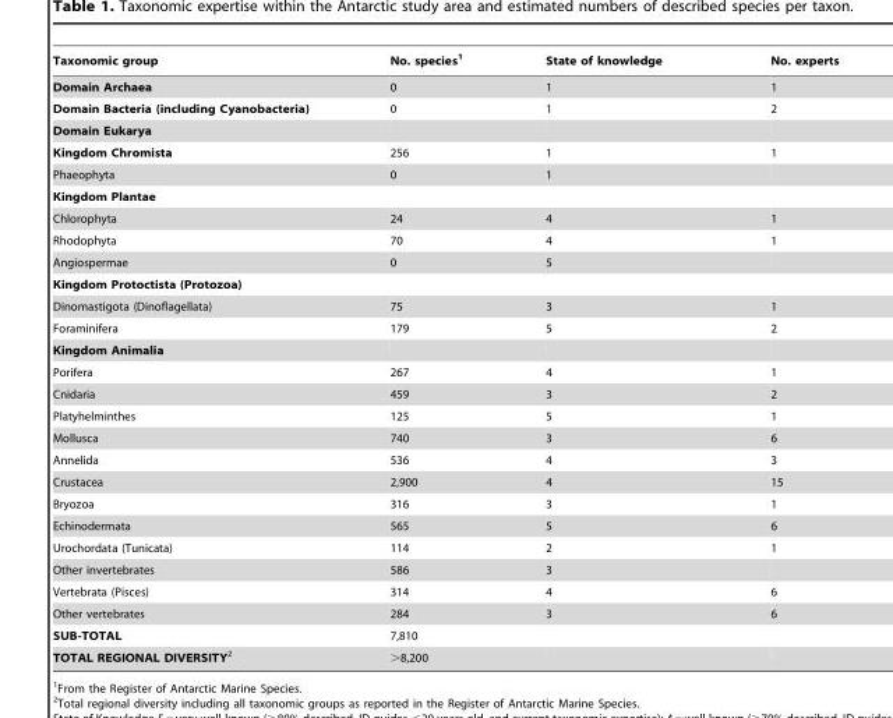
<table><thead><tr><td>Taxonomic group</td><td>No. species<sup>1</sup></td><td>State of knowledge</td><td>No. experts</td></tr></thead><tbody><tr><td>Domain Archaea</td><td>0</td><td>1</td><td>1</td></tr><tr><td>Domain Bacteria (including Cyanobacteria)</td><td>0</td><td>1</td><td>2</td></tr><tr><td colspan="4">Domain Eukarya</td></tr><tr><td>Kingdom Chromista</td><td>256</td><td>1</td><td>1</td></tr><tr><td>Phaeophyta</td><td>0</td><td>1</td><td></td></tr><tr><td colspan="4">Kingdom Plantae</td></tr><tr><td>Chlorophyta</td><td>24</td><td>4</td><td>1</td></tr><tr><td>Rhodophyta</td><td>70</td><td>4</td><td>1</td></tr><tr><td>Angiospermae</td><td>0</td><td>5</td><td></td></tr><tr><td colspan="4">Kingdom Protoctista (Protozoa)</td></tr><tr><td>Dinomastigota (Dinoflagellata)</td><td>75</td><td>3</td><td>1</td></tr><tr><td>Foraminifera</td><td>179</td><td>5</td><td>2</td></tr><tr><td colspan="4">Kingdom Animalia</td></tr><tr><td>Porifera</td><td>267</td><td>4</td><td>1</td></tr><tr><td>Cnidaria</td><td>459</td><td>3</td><td>2</td></tr><tr><td>Platyhelminthes</td><td>125</td><td>5</td><td>1</td></tr><tr><td>Mollusca</td><td>740</td><td>3</td><td>6</td></tr><tr><td>Annelida</td><td>536</td><td>4</td><td>3</td></tr><tr><td>Crustacea</td><td>2,900</td><td>4</td><td>15</td></tr><tr><td>Bryozoa</td><td>316</td><td>3</td><td>1</td></tr><tr><td>Echinodermata</td><td>565</td><td>5</td><td>6</td></tr><tr><td>Urochordata (Tunicata)</td><td>114</td><td>2</td><td>1</td></tr><tr><td>Other invertebrates</td><td>586</td><td>3</td><td></td></tr><tr><td>Vertebrata (Pisces)</td><td>314</td><td>4</td><td>6</td></tr><tr><td>Other vertebrates</td><td>284</td><td>3</td><td>6</td></tr><tr><td>SUB-TOTAL</td><td>7,810</td><td></td><td></td></tr><tr><td>TOTAL REGIONAL DIVERSITY2</td><td>&gt;8,200</td><td></td><td></td></tr></tbody></table>